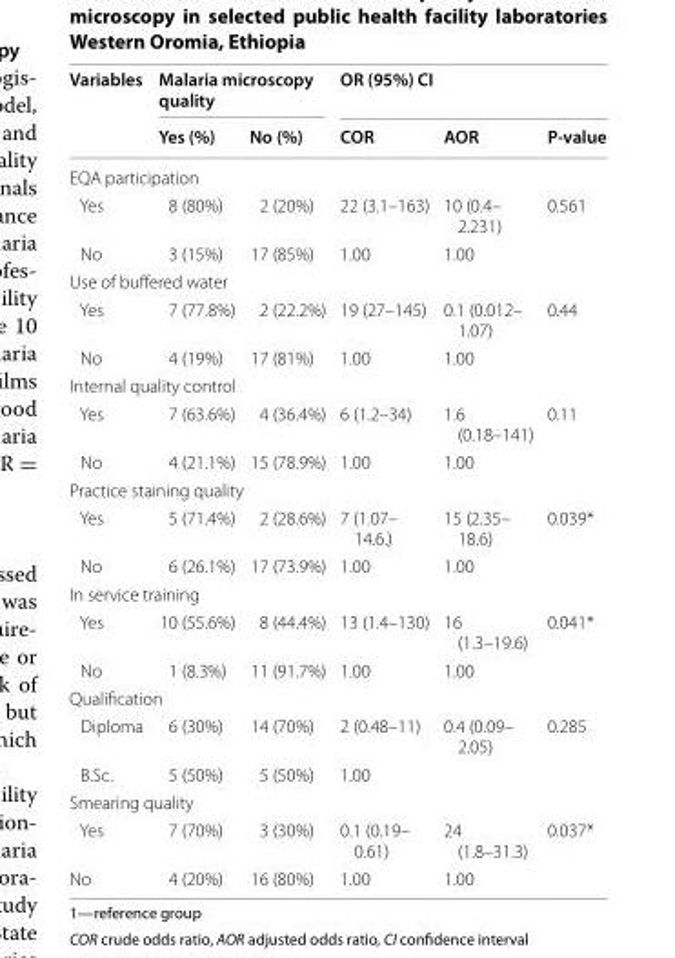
<table><thead><tr><td rowspan="2">Variables</td><td colspan="2">Malaria microscopy quality</td><td colspan="3">OR (95%) CI</td></tr><tr><td>Yes (%)</td><td>No (%)</td><td>COR</td><td>AOR</td><td>P-value</td></tr></thead><tbody><tr><td colspan="6">EQA participation</td></tr><tr><td>Yes</td><td>8 (80%)</td><td>2 (20%)</td><td>22 (3.1–163)</td><td>10 (0.4– 2.231)</td><td>0.561</td></tr><tr><td>No</td><td>3 (15%)</td><td>17 (85%)</td><td>1.00</td><td>1.00</td><td></td></tr><tr><td colspan="6">Use of buffered water</td></tr><tr><td>Yes</td><td>7 (77.8%)</td><td>2 (22.2%)</td><td>19 (27–145)</td><td>0.1 (0.012– 1.07)</td><td>0.44</td></tr><tr><td>No</td><td>4 (19%)</td><td>17 (81%)</td><td>1.00</td><td>1.00</td><td></td></tr><tr><td colspan="6">Internal quality control</td></tr><tr><td>Yes</td><td>7 (63.6%)</td><td>4 (36.4%)</td><td>6 (1.2–34)</td><td>1.6 (0.18–141)</td><td>0.11</td></tr><tr><td>No</td><td>4 (21.1%)</td><td>15 (78.9%)</td><td>1.00</td><td>1.00</td><td></td></tr><tr><td colspan="6">Practice staining quality</td></tr><tr><td>Yes</td><td>5 (71.4%)</td><td>2 (28.6%)</td><td>7 (1.07– 14.6.)</td><td>15 (2.35– 18.6)</td><td>0.039*</td></tr><tr><td>No</td><td>6 (26.1%)</td><td>17 (73.9%)</td><td>1.00</td><td>1.00</td><td></td></tr><tr><td colspan="6">In service training</td></tr><tr><td>Yes</td><td>10 (55.6%)</td><td>8 (44.4%)</td><td>13 (1.4–130)</td><td>16 (1.3–19.6)</td><td>0.041*</td></tr><tr><td>No</td><td>1 (8.3%)</td><td>11 (91.7%)</td><td>1.00</td><td>1.00</td><td></td></tr><tr><td colspan="6">Qualification</td></tr><tr><td>Diploma</td><td>6 (30%)</td><td>14 (70%)</td><td>2 (0.48–11)</td><td>0.4 (0.09– 2.05)</td><td>0.285</td></tr><tr><td>B.Sc.</td><td>5 (50%)</td><td>5 (50%)</td><td>1.00</td><td></td><td></td></tr><tr><td colspan="6">Smearing quality</td></tr><tr><td>Yes</td><td>7 (70%)</td><td>3 (30%)</td><td>0.1 (0.19– 0.61)</td><td>24 (1.8–31.3)</td><td>0.037*</td></tr><tr><td>No</td><td>4 (20%)</td><td>16 (80%)</td><td>1.00</td><td>1.00</td><td></td></tr></tbody></table>